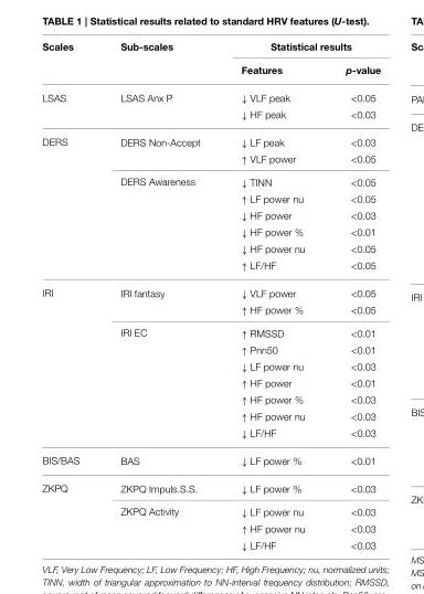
<table><thead><tr><td rowspan="2">Scales</td><td rowspan="2">Sub-scales</td><td colspan="2">Statistical results</td></tr><tr><td>Features</td><td>p-value</td></tr></thead><tbody><tr><td rowspan="2">LSAS</td><td>LSAS Anx P</td><td>↓ VLF peak</td><td>&lt;0.05</td></tr><tr><td></td><td>↓ HF peak</td><td>&lt;0.03</td></tr><tr><td rowspan="8">DERS</td><td>DERS Non-Accept</td><td>↓ LF peak</td><td>&lt;0.03</td></tr><tr><td></td><td>↑ VLF power</td><td>&lt;0.05</td></tr><tr><td>DERS Awareness</td><td>↓ TINN</td><td>&lt;0.05</td></tr><tr><td></td><td>↑ LF power nu</td><td>&lt;0.05</td></tr><tr><td></td><td>↓ HF power</td><td>&lt;0.03</td></tr><tr><td></td><td>↓ HF power %</td><td>&lt;0.01</td></tr><tr><td></td><td>↓ HF power nu</td><td>&lt;0.05</td></tr><tr><td></td><td>↑ LF/HF</td><td>&lt;0.05</td></tr><tr><td rowspan="9">IRI</td><td>IRI fantasy</td><td>↓ VLF power</td><td>&lt;0.05</td></tr><tr><td></td><td>↑ HF power %</td><td>&lt;0.05</td></tr><tr><td>IRI EC</td><td>↑ RMSSD</td><td>&lt;0.01</td></tr><tr><td></td><td>↑ Pnn50</td><td>&lt;0.01</td></tr><tr><td></td><td>↓ LF power nu</td><td>&lt;0.03</td></tr><tr><td></td><td>↑ HF power</td><td>&lt;0.01</td></tr><tr><td></td><td>↑ HF power %</td><td>&lt;0.03</td></tr><tr><td></td><td>↑ HF power nu</td><td>&lt;0.03</td></tr><tr><td></td><td>↓ LF/HF</td><td>&lt;0.03</td></tr><tr><td>BIS/BAS</td><td>BAS</td><td>↓ LF power %</td><td>&lt;0.01</td></tr><tr><td rowspan="4">ZKPQ</td><td>ZKPQ Impuls.S.S.</td><td>↓ LF power %</td><td>&lt;0.03</td></tr><tr><td>ZKPQ Activity</td><td>↓ LF power nu</td><td>&lt;0.03</td></tr><tr><td></td><td>↑ HF power nu</td><td>&lt;0.03</td></tr><tr><td></td><td>↓ LF/HF</td><td>&lt;0.03</td></tr></tbody></table>